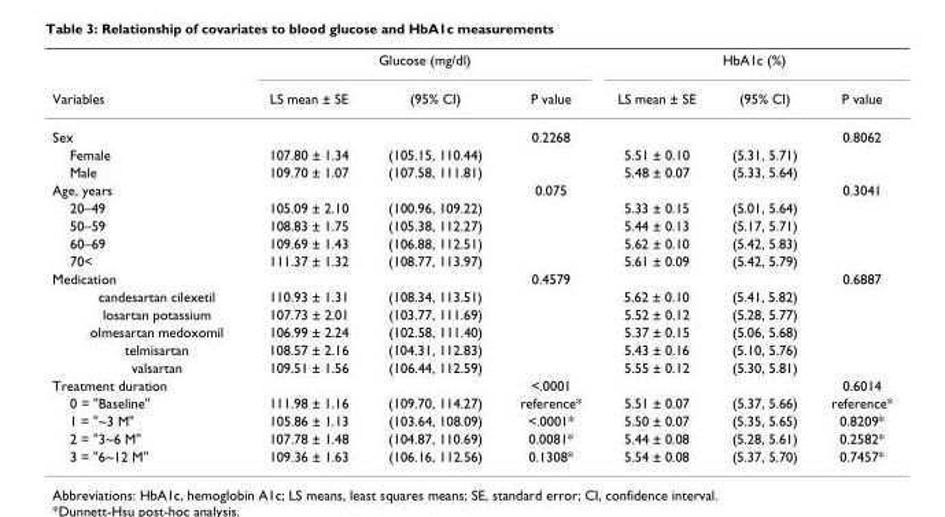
<table><thead><tr><td rowspan="2">Variables</td><td colspan="3">Glucose (mg/dl)</td><td colspan="3">HbA1c (%)</td></tr><tr><td>LS mean ± SE</td><td>(95% CI)</td><td>P value</td><td>LS mean ± SE</td><td>(95% CI)</td><td>P value</td></tr></thead><tbody><tr><td>Sex</td><td></td><td></td><td>0.2268</td><td></td><td></td><td>0.8062</td></tr><tr><td>Female</td><td>107.80 ± 1.34</td><td>(105.15, 110.44)</td><td></td><td>5.51 ± 0.10</td><td>(5.31, 5.71)</td><td></td></tr><tr><td>Male</td><td>109.70 ± 1.07</td><td>(107.58, 111.81)</td><td></td><td>5.48 ± 0.07</td><td>(5.33, 5.64)</td><td></td></tr><tr><td>Age, years</td><td></td><td></td><td>0.075</td><td></td><td></td><td>0.3041</td></tr><tr><td>20–49</td><td>105.09 ± 2.10</td><td>(100.96, 109.22)</td><td></td><td>5.33 ± 0.15</td><td>(5.01, 5.64)</td><td></td></tr><tr><td>50–59</td><td>108.83 ± 1.75</td><td>(105.38, 112.27)</td><td></td><td>5.44 ± 0.13</td><td>(5.17, 5.71)</td><td></td></tr><tr><td>60–69</td><td>109.69 ± 1.43</td><td>(106.88, 112.51)</td><td></td><td>5.62 ± 0.10</td><td>(5.42, 5.83)</td><td></td></tr><tr><td>70&lt;</td><td>111.37 ± 1.32</td><td>(108.77, 113.97)</td><td></td><td>5.61 ± 0.09</td><td>(5.42, 5.79)</td><td></td></tr><tr><td>Medication</td><td></td><td></td><td>0.4579</td><td></td><td></td><td>0.6887</td></tr><tr><td>candesartan cilexetil</td><td>110.93 ± 1.31</td><td>(108.34, 113.51)</td><td></td><td>5.62 ± 0.10</td><td>(5.41, 5.82)</td><td></td></tr><tr><td>losartan potassium</td><td>107.73 ± 2.01</td><td>(103.77, 111.69)</td><td></td><td>5.52 ± 0.12</td><td>(5.28, 5.77)</td><td></td></tr><tr><td>olmesartan medoxomil</td><td>106.99 ± 2.24</td><td>(102.58, 111.40)</td><td></td><td>5.37 ± 0.15</td><td>(5.06, 5.68)</td><td></td></tr><tr><td>telmisartan</td><td>108.57 ± 2.16</td><td>(104.31, 112.83)</td><td></td><td>5.43 ± 0.16</td><td>(5.10, 5.76)</td><td></td></tr><tr><td>valsartan</td><td>109.51 ± 1.56</td><td>(106.44, 112.59)</td><td></td><td>5.55 ± 0.12</td><td>(5.30, 5.81)</td><td></td></tr><tr><td>Treatment duration</td><td></td><td></td><td>&lt;.0001</td><td></td><td></td><td>0.6014</td></tr><tr><td>0 = &quot;Baseline&quot;</td><td>111.98 ± 1.16</td><td>(109.70, 114.27)</td><td>reference*</td><td>5.51 ± 0.07</td><td>(5.37, 5.66)</td><td>reference*</td></tr><tr><td>1 = &quot;~3 M&quot;</td><td>105.86 ± 1.13</td><td>(103.64, 108.09)</td><td>&lt;.0001*</td><td>5.50 ± 0.07</td><td>(5.35, 5.65)</td><td>0.8209*</td></tr><tr><td>2 = &quot;3~6 M&quot;</td><td>107.78 ± 1.48</td><td>(104.87, 110.69)</td><td>0.0081*</td><td>5.44 ± 0.08</td><td>(5.28, 5.61)</td><td>0.2582*</td></tr><tr><td>3 = &quot;6~12 M&quot;</td><td>109.36 ± 1.63</td><td>(106.16, 112.56)</td><td>0.1308*</td><td>5.54 ± 0.08</td><td>(5.37, 5.70)</td><td>0.7457*</td></tr></tbody></table>